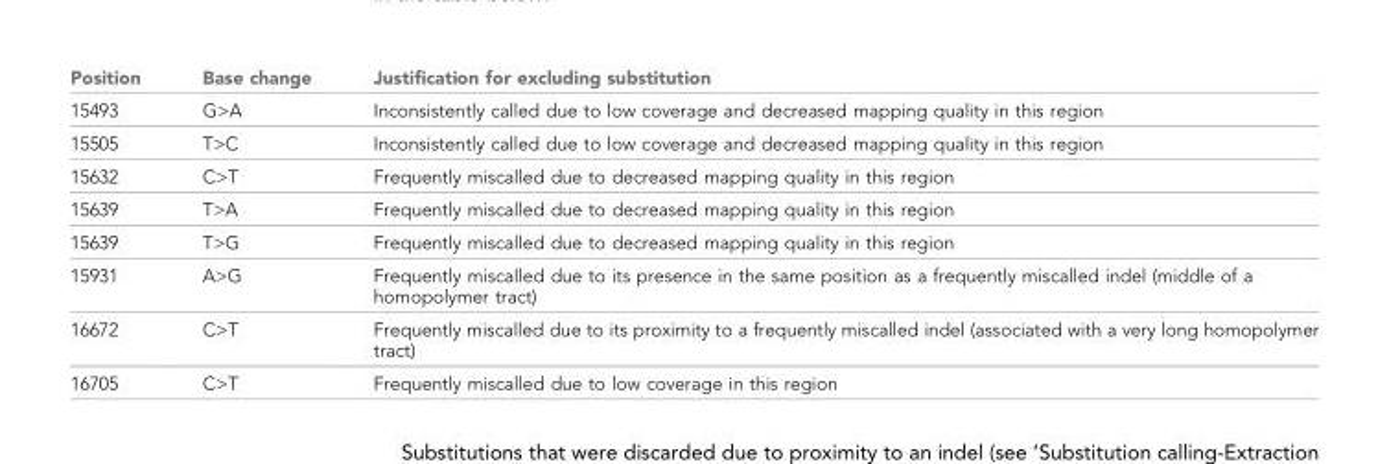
<table><thead><tr><td>Position</td><td>Base change</td><td>Justification for excluding substitution</td></tr></thead><tbody><tr><td>15493</td><td>G&gt;A</td><td>Inconsistently called due to low coverage and decreased mapping quality in this region</td></tr><tr><td>15505</td><td>T&gt;C</td><td>Inconsistently called due to low coverage and decreased mapping quality in this region</td></tr><tr><td>15632</td><td>C&gt;T</td><td>Frequently miscalled due to decreased mapping quality in this region</td></tr><tr><td>15639</td><td>T&gt;A</td><td>Frequently miscalled due to decreased mapping quality in this region</td></tr><tr><td>15639</td><td>T&gt;G</td><td>Frequently miscalled due to decreased mapping quality in this region</td></tr><tr><td>15931</td><td>A&gt;G</td><td>Frequently miscalled due to its presence in the same position as a frequently miscalled indel (middle of a homopolymer tract)</td></tr><tr><td>16672</td><td>C&gt;T</td><td>Frequently miscalled due to its proximity to a frequently miscalled indel (associated with a very long homopolymer tract)</td></tr><tr><td>16705</td><td>C&gt;T</td><td>Frequently miscalled due to low coverage in this region</td></tr></tbody></table>